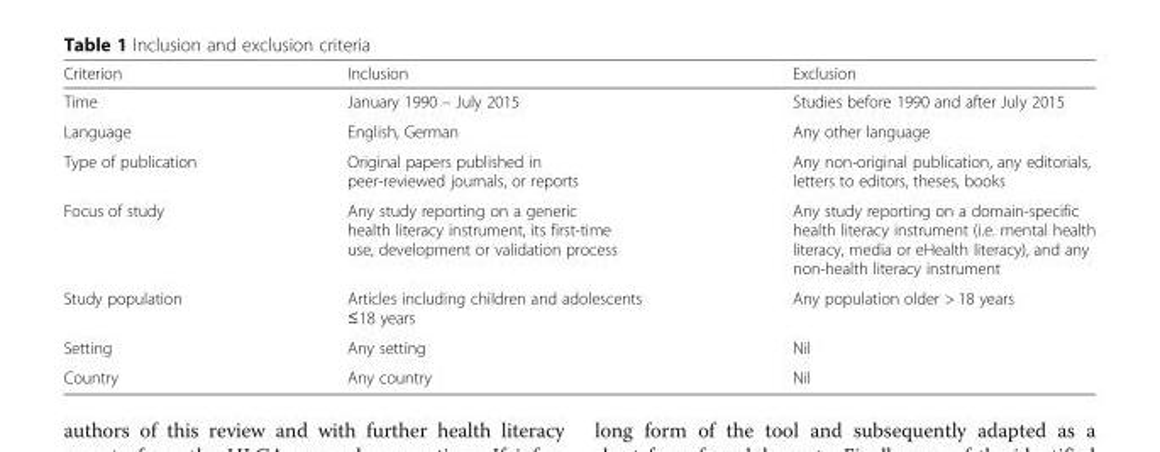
<table><thead><tr><td>Criterion</td><td>Inclusion</td><td>Exclusion</td></tr></thead><tbody><tr><td>Time</td><td>January 1990 – July 2015</td><td>Studies before 1990 and after July 2015</td></tr><tr><td>Language</td><td>English, German</td><td>Any other language</td></tr><tr><td>Type of publication</td><td>Original papers published in peer-reviewed journals, or reports</td><td>Any non-original publication, any editorials, letters to editors, theses, books</td></tr><tr><td>Focus of study</td><td>Any study reporting on a generic health literacy instrument, its first-time use, development or validation process</td><td>Any study reporting on a domain-specific health literacy instrument (i.e. mental health literacy, media or eHealth literacy), and any non-health literacy instrument</td></tr><tr><td>Study population</td><td>Articles including children and adolescents ≤18 years</td><td>Any population older &gt; 18 years</td></tr><tr><td>Setting</td><td>Any setting</td><td>Nil</td></tr><tr><td>Country</td><td>Any country</td><td>Nil</td></tr></tbody></table>